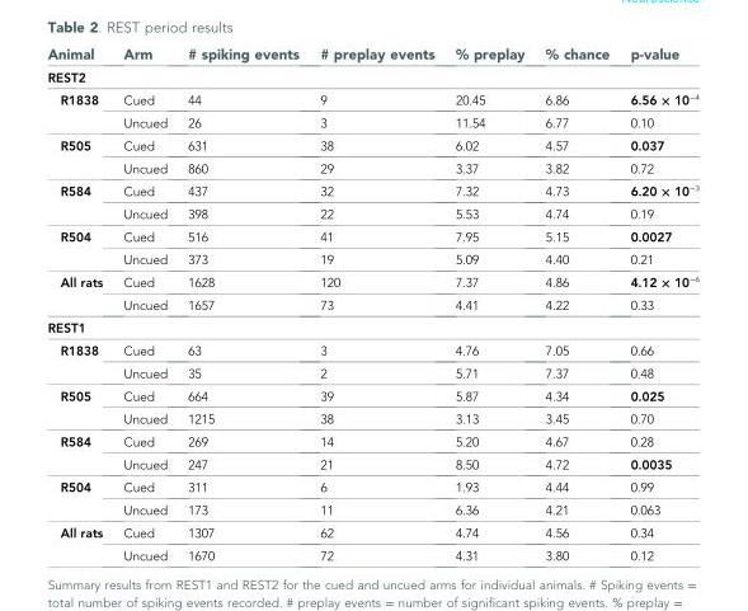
<table><thead><tr><td>Animal</td><td>Arm</td><td># spiking events</td><td># preplay events</td><td>% preplay</td><td>% chance</td><td>p-value</td></tr></thead><tbody><tr><td colspan="7">REST2</td></tr><tr><td rowspan="2">R1838</td><td>Cued</td><td>44</td><td>9</td><td>20.45</td><td>6.86</td><td>6.56 × 10<sup>−4</sup></td></tr><tr><td>Uncued</td><td>26</td><td>3</td><td>11.54</td><td>6.77</td><td>0.10</td></tr><tr><td rowspan="2">R505</td><td>Cued</td><td>631</td><td>38</td><td>6.02</td><td>4.57</td><td>0.037</td></tr><tr><td>Uncued</td><td>860</td><td>29</td><td>3.37</td><td>3.82</td><td>0.72</td></tr><tr><td rowspan="2">R584</td><td>Cued</td><td>437</td><td>32</td><td>7.32</td><td>4.73</td><td>6.20 × 10<sup>−3</sup></td></tr><tr><td>Uncued</td><td>398</td><td>22</td><td>5.53</td><td>4.74</td><td>0.19</td></tr><tr><td rowspan="2">R504</td><td>Cued</td><td>516</td><td>41</td><td>7.95</td><td>5.15</td><td>0.0027</td></tr><tr><td>Uncued</td><td>373</td><td>19</td><td>5.09</td><td>4.40</td><td>0.21</td></tr><tr><td rowspan="2">All rats</td><td>Cued</td><td>1628</td><td>120</td><td>7.37</td><td>4.86</td><td>4.12 × 10<sup>−6</sup></td></tr><tr><td>Uncued</td><td>1657</td><td>73</td><td>4.41</td><td>4.22</td><td>0.33</td></tr><tr><td colspan="7">REST1</td></tr><tr><td rowspan="2">R1838</td><td>Cued</td><td>63</td><td>3</td><td>4.76</td><td>7.05</td><td>0.66</td></tr><tr><td>Uncued</td><td>35</td><td>2</td><td>5.71</td><td>7.37</td><td>0.48</td></tr><tr><td rowspan="2">R505</td><td>Cued</td><td>664</td><td>39</td><td>5.87</td><td>4.34</td><td>0.025</td></tr><tr><td>Uncued</td><td>1215</td><td>38</td><td>3.13</td><td>3.45</td><td>0.70</td></tr><tr><td rowspan="2">R584</td><td>Cued</td><td>269</td><td>14</td><td>5.20</td><td>4.67</td><td>0.28</td></tr><tr><td>Uncued</td><td>247</td><td>21</td><td>8.50</td><td>4.72</td><td>0.0035</td></tr><tr><td rowspan="2">R504</td><td>Cued</td><td>311</td><td>6</td><td>1.93</td><td>4.44</td><td>0.99</td></tr><tr><td>Uncued</td><td>173</td><td>11</td><td>6.36</td><td>4.21</td><td>0.063</td></tr><tr><td rowspan="2">All rats</td><td>Cued</td><td>1307</td><td>62</td><td>4.74</td><td>4.56</td><td>0.34</td></tr><tr><td>Uncued</td><td>1670</td><td>72</td><td>4.31</td><td>3.80</td><td>0.12</td></tr></tbody></table>